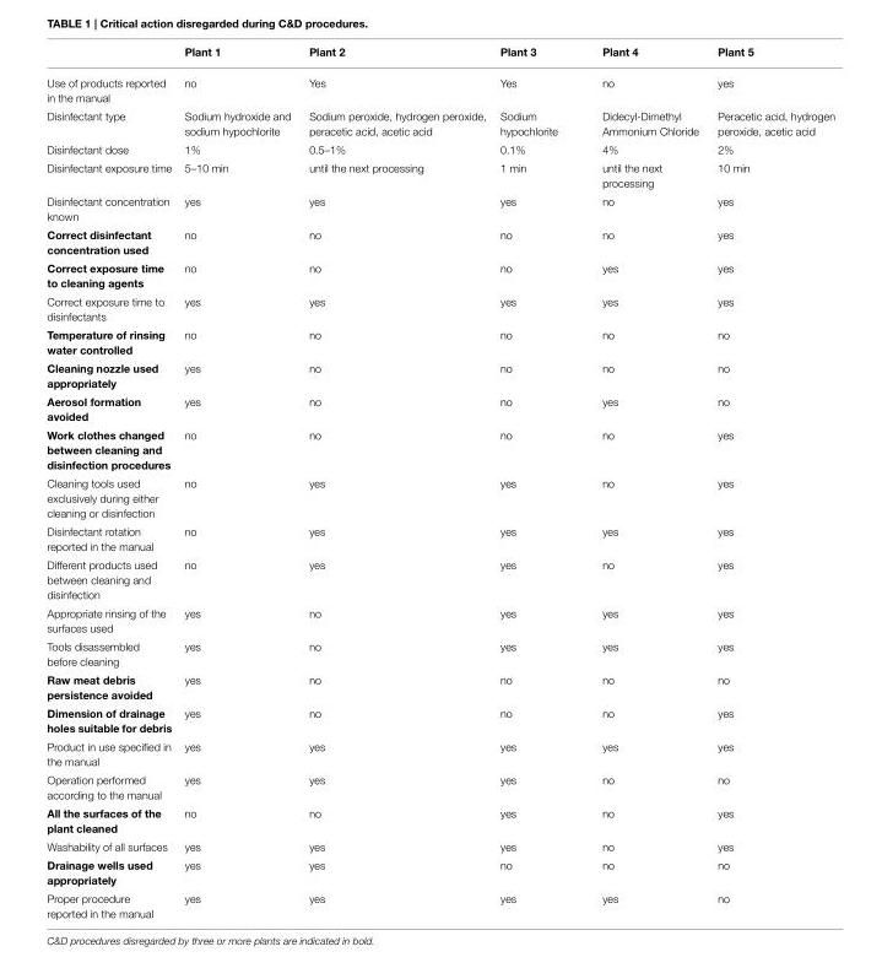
<table><thead><tr><td></td><td>Plant 1</td><td>Plant 2</td><td>Plant 3</td><td>Plant 4</td><td>Plant 5</td></tr></thead><tbody><tr><td>Use of products reported in the manual</td><td>no</td><td>Yes</td><td>Yes</td><td>no</td><td>yes</td></tr><tr><td>Disinfectant type</td><td>Sodium hydroxide and sodium hypochlorite</td><td>Sodium peroxide, hydrogen peroxide, peracetic acid, acetic acid</td><td>Sodium hypochlorite</td><td>Didecyl-Dimethyl Ammonium Chloride</td><td>Peracetic acid, hydrogen peroxide, acetic acid</td></tr><tr><td>Disinfectant dose</td><td>1%</td><td>0.5–1%</td><td>0.1%</td><td>4%</td><td>2%</td></tr><tr><td>Disinfectant exposure time</td><td>5–10 min</td><td>until the next processing</td><td>1 min</td><td>until the next processing</td><td>10 min</td></tr><tr><td>Disinfectant concentration known</td><td>yes</td><td>yes</td><td>yes</td><td>no</td><td>yes</td></tr><tr><td>Correct disinfectant concentration used</td><td>no</td><td>no</td><td>no</td><td>no</td><td>yes</td></tr><tr><td>Correct exposure time to cleaning agents</td><td>no</td><td>no</td><td>no</td><td>yes</td><td>yes</td></tr><tr><td>Correct exposure time to disinfectants</td><td>yes</td><td>yes</td><td>yes</td><td>yes</td><td>yes</td></tr><tr><td>Temperature of rinsing water controlled</td><td>no</td><td>no</td><td>no</td><td>no</td><td>no</td></tr><tr><td>Cleaning nozzle used appropriately</td><td>yes</td><td>no</td><td>no</td><td>no</td><td>no</td></tr><tr><td>Aerosol formation avoided</td><td>yes</td><td>no</td><td>no</td><td>yes</td><td>no</td></tr><tr><td>Work clothes changed between cleaning and disinfection procedures</td><td>no</td><td>no</td><td>no</td><td>no</td><td>yes</td></tr><tr><td>Cleaning tools used exclusively during either cleaning or disinfection</td><td>no</td><td>yes</td><td>yes</td><td>no</td><td>yes</td></tr><tr><td>Disinfectant rotation reported in the manual</td><td>no</td><td>yes</td><td>yes</td><td>yes</td><td>yes</td></tr><tr><td>Different products used between cleaning and disinfection</td><td>no</td><td>yes</td><td>yes</td><td>no</td><td>yes</td></tr><tr><td>Appropriate rinsing of the surfaces used</td><td>yes</td><td>no</td><td>yes</td><td>yes</td><td>yes</td></tr><tr><td>Tools disassembled before cleaning</td><td>yes</td><td>no</td><td>yes</td><td>yes</td><td>yes</td></tr><tr><td>Raw meat debris persistence avoided</td><td>yes</td><td>no</td><td>no</td><td>no</td><td>no</td></tr><tr><td>Dimension of drainage holes suitable for debris</td><td>yes</td><td>no</td><td>no</td><td>no</td><td>yes</td></tr><tr><td>Product in use specified in the manual</td><td>yes</td><td>yes</td><td>yes</td><td>yes</td><td>yes</td></tr><tr><td>Operation performed according to the manual</td><td>yes</td><td>yes</td><td>yes</td><td>no</td><td>no</td></tr><tr><td>All the surfaces of the plant cleaned</td><td>no</td><td>no</td><td>yes</td><td>no</td><td>yes</td></tr><tr><td>Washability of all surfaces</td><td>yes</td><td>yes</td><td>yes</td><td>no</td><td>yes</td></tr><tr><td>Drainage wells used appropriately</td><td>yes</td><td>yes</td><td>no</td><td>no</td><td>no</td></tr><tr><td>Proper procedure reported in the manual</td><td>yes</td><td>yes</td><td>yes</td><td>yes</td><td>no</td></tr></tbody></table>